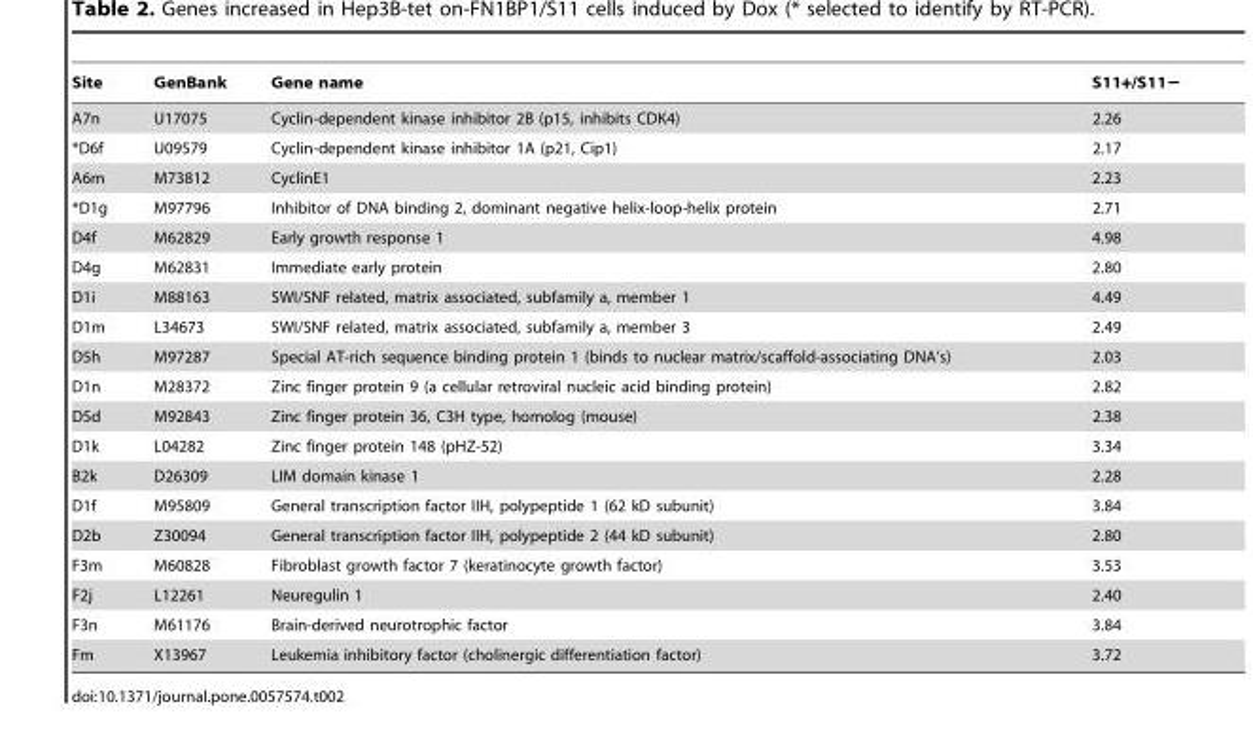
<table><thead><tr><td>Site</td><td>GenBank</td><td>Gene name</td><td>S11+/S11−</td></tr></thead><tbody><tr><td>A7n</td><td>U17075</td><td>Cyclin-dependent kinase inhibitor 2B (p15, inhibits CDK4)</td><td>2.26</td></tr><tr><td>*D6f</td><td>U09579</td><td>Cyclin-dependent kinase inhibitor 1A (p21, Cip1)</td><td>2.17</td></tr><tr><td>A6m</td><td>M73812</td><td>CyclinE1</td><td>2.23</td></tr><tr><td>*D1g</td><td>M97796</td><td>Inhibitor of DNA binding 2, dominant negative helix-loop-helix protein</td><td>2.71</td></tr><tr><td>D4f</td><td>M62829</td><td>Early growth response 1</td><td>4.98</td></tr><tr><td>D4g</td><td>M62831</td><td>Immediate early protein</td><td>2.80</td></tr><tr><td>D1i</td><td>M88163</td><td>SWI/SNF related, matrix associated, subfamily a, member 1</td><td>4.49</td></tr><tr><td>D1m</td><td>L34673</td><td>SWI/SNF related, matrix associated, subfamily a, member 3</td><td>2.49</td></tr><tr><td>D5h</td><td>M97287</td><td>Special AT-rich sequence binding protein 1 (binds to nuclear matrix/scaffold-associating DNA’s)</td><td>2.03</td></tr><tr><td>D1n</td><td>M28372</td><td>Zinc finger protein 9 (a cellular retroviral nucleic acid binding protein)</td><td>2.82</td></tr><tr><td>D5d</td><td>M92843</td><td>Zinc finger protein 36, C3H type, homolog (mouse)</td><td>2.38</td></tr><tr><td>D1k</td><td>L04282</td><td>Zinc finger protein 148 (pHZ-52)</td><td>3.34</td></tr><tr><td>B2k</td><td>D26309</td><td>LIM domain kinase 1</td><td>2.28</td></tr><tr><td>D1f</td><td>M95809</td><td>General transcription factor IIH, polypeptide 1 (62 kD subunit)</td><td>3.84</td></tr><tr><td>D2b</td><td>Z30094</td><td>General transcription factor IIH, polypeptide 2 (44 kD subunit)</td><td>2.80</td></tr><tr><td>F3m</td><td>M60828</td><td>Fibroblast growth factor 7 (keratinocyte growth factor)</td><td>3.53</td></tr><tr><td>F2j</td><td>L12261</td><td>Neuregulin 1</td><td>2.40</td></tr><tr><td>F3n</td><td>M61176</td><td>Brain-derived neurotrophic factor</td><td>3.84</td></tr><tr><td>Fm</td><td>X13967</td><td>Leukemia inhibitory factor (cholinergic differentiation factor)</td><td>3.72</td></tr></tbody></table>